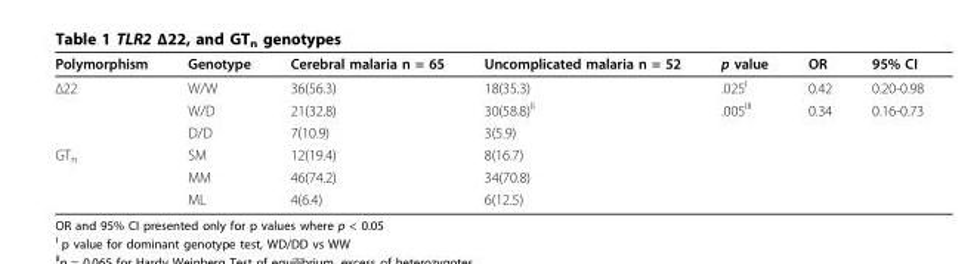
<table><thead><tr><td>Polymorphism</td><td>Genotype</td><td>Cerebral malaria n = 65</td><td>Uncomplicated malaria n = 52</td><td>p value</td><td>OR</td><td>95% CI</td></tr></thead><tbody><tr><td rowspan="3">Δ22</td><td>W/W</td><td>36(56.3)</td><td>18(35.3)</td><td>.025<sup>I</sup></td><td>0.42</td><td>0.20-0.98</td></tr><tr><td>W/D</td><td>21(32.8)</td><td>30(58.8)<sup>II</sup></td><td>.005<sup>III</sup></td><td>0.34</td><td>0.16-0.73</td></tr><tr><td>D/D</td><td>7(10.9)</td><td>3(5.9)</td><td></td><td></td><td></td></tr><tr><td rowspan="3">GT<sub>n</sub></td><td>SM</td><td>12(19.4)</td><td>8(16.7)</td><td></td><td></td><td></td></tr><tr><td>MM</td><td>46(74.2)</td><td>34(70.8)</td><td></td><td></td><td></td></tr><tr><td>ML</td><td>4(6.4)</td><td>6(12.5)</td><td></td><td></td><td></td></tr></tbody></table>